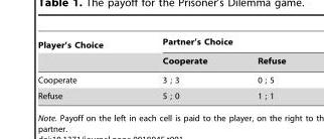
<table><thead><tr><td rowspan="2">Player’s Choice</td><td colspan="2">Partner’s Choice</td></tr><tr><td>Cooperate</td><td>Refuse</td></tr></thead><tbody><tr><td>Cooperate</td><td>3 ; 3</td><td>0 ; 5</td></tr><tr><td>Refuse</td><td>5 ; 0</td><td>1 ; 1</td></tr></tbody></table>